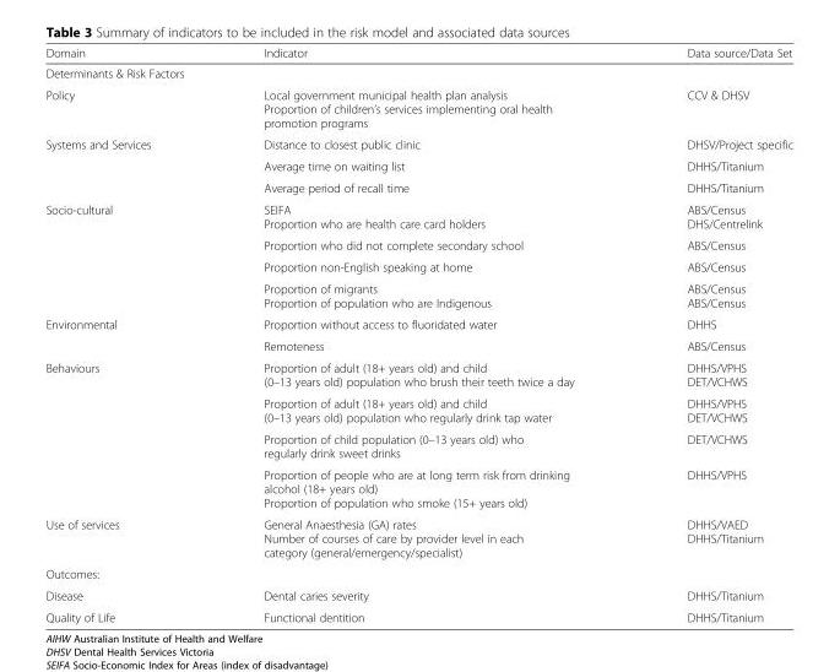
<table><thead><tr><td>Domain</td><td>Indicator</td><td>Data source/Data Set</td></tr></thead><tbody><tr><td colspan="3">Determinants &amp; Risk Factors</td></tr><tr><td>Policy</td><td>Local government municipal health plan analysis Proportion of children’s services implementing oral health promotion programs</td><td>CCV &amp; DHSV</td></tr><tr><td rowspan="3">Systems and Services</td><td>Distance to closest public clinic</td><td>DHSV/Project specific</td></tr><tr><td>Average time on waiting list</td><td>DHHS/Titanium</td></tr><tr><td>Average period of recall time</td><td>DHHS/Titanium</td></tr><tr><td rowspan="4">Socio-cultural</td><td>SEIFA Proportion who are health care card holders</td><td>ABS/Census DHS/Centrelink</td></tr><tr><td>Proportion who did not complete secondary school</td><td>ABS/Census</td></tr><tr><td>Proportion non-English speaking at home</td><td>ABS/Census</td></tr><tr><td>Proportion of migrants Proportion of population who are Indigenous</td><td>ABS/Census ABS/Census</td></tr><tr><td rowspan="2">Environmental</td><td>Proportion without access to fluoridated water</td><td>DHHS</td></tr><tr><td>Remoteness</td><td>ABS/Census</td></tr><tr><td rowspan="4">Behaviours</td><td>Proportion of adult (18+ years old) and child (0–13 years old) population who brush their teeth twice a day</td><td>DHHS/VPHS DET/VCHWS</td></tr><tr><td>Proportion of adult (18+ years old) and child (0–13 years old) population who regularly drink tap water</td><td>DHHS/VPHS DET/VCHWS</td></tr><tr><td>Proportion of child population (0–13 years old) who regularly drink sweet drinks</td><td>DET/VCHWS</td></tr><tr><td>Proportion of people who are at long term risk from drinking alcohol (18+ years old) Proportion of population who smoke (15+ years old)</td><td>DHHS/VPHS</td></tr><tr><td>Use of services</td><td>General Anaesthesia (GA) rates Number of courses of care by provider level in each category (general/emergency/specialist)</td><td>DHHS/VAED DHHS/Titanium</td></tr><tr><td colspan="3">Outcomes:</td></tr><tr><td>Disease</td><td>Dental caries severity</td><td>DHHS/Titanium</td></tr><tr><td>Quality of Life</td><td>Functional dentition</td><td>DHHS/Titanium</td></tr></tbody></table>